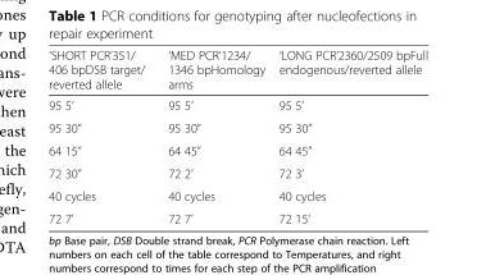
<table><thead><tr><td>‘SHORT PCR’351/ 406 bpDSB target/ reverted allele</td><td>‘MED PCR’1234/ 1346 bpHomology arms</td><td>‘LONG PCR’2360/2509 bpFull endogenous/reverted allele</td></tr></thead><tbody><tr><td>95 5’</td><td>95 5’</td><td>95 5’</td></tr><tr><td>95 30”</td><td>95 30”</td><td>95 30”</td></tr><tr><td>64 15”</td><td>64 45”</td><td>64 45”</td></tr><tr><td>72 30”</td><td>72 2’</td><td>72 3’</td></tr><tr><td>40 cycles</td><td>40 cycles</td><td>40 cycles</td></tr><tr><td>72 7’</td><td>72 7’</td><td>72 15’</td></tr></tbody></table>